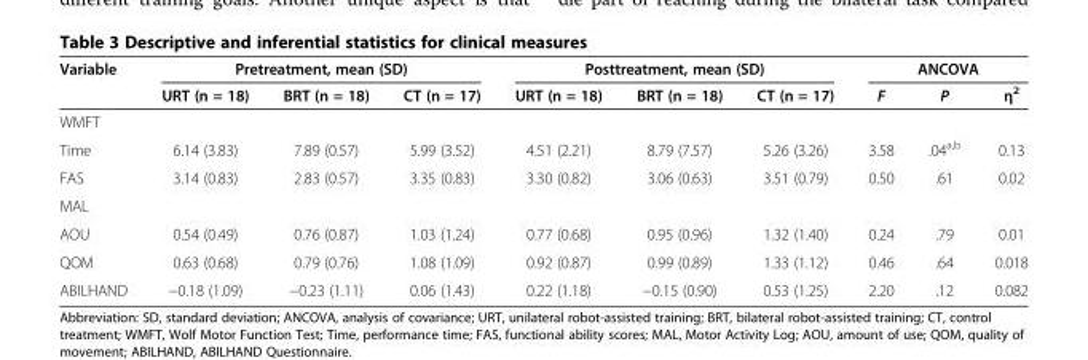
<table><thead><tr><td rowspan="2">Variable</td><td colspan="3">Pretreatment, mean (SD)</td><td colspan="3">Posttreatment, mean (SD)</td><td colspan="3">ANCOVA</td></tr><tr><td>URT (n = 18)</td><td>BRT (n = 18)</td><td>CT (n = 17)</td><td>URT (n = 18)</td><td>BRT (n = 18)</td><td>CT (n = 17)</td><td>F</td><td>P</td><td>η<sup>2</sup></td></tr></thead><tbody><tr><td colspan="10">WMFT</td></tr><tr><td>Time</td><td>6.14 (3.83)</td><td>7.89 (0.57)</td><td>5.99 (3.52)</td><td>4.51 (2.21)</td><td>8.79 (7.57)</td><td>5.26 (3.26)</td><td>3.58</td><td>.04<sup>a,b</sup></td><td>0.13</td></tr><tr><td>FAS</td><td>3.14 (0.83)</td><td>2.83 (0.57)</td><td>3.35 (0.83)</td><td>3.30 (0.82)</td><td>3.06 (0.63)</td><td>3.51 (0.79)</td><td>0.50</td><td>.61</td><td>0.02</td></tr><tr><td colspan="10">MAL</td></tr><tr><td>AOU</td><td>0.54 (0.49)</td><td>0.76 (0.87)</td><td>1.03 (1.24)</td><td>0.77 (0.68)</td><td>0.95 (0.96)</td><td>1.32 (1.40)</td><td>0.24</td><td>.79</td><td>0.01</td></tr><tr><td>QOM</td><td>0.63 (0.68)</td><td>0.79 (0.76)</td><td>1.08 (1.09)</td><td>0.92 (0.87)</td><td>0.99 (0.89)</td><td>1.33 (1.12)</td><td>0.46</td><td>.64</td><td>0.018</td></tr><tr><td>ABILHAND</td><td>−0.18 (1.09)</td><td>−0.23 (1.11)</td><td>0.06 (1.43)</td><td>0.22 (1.18)</td><td>−0.15 (0.90)</td><td>0.53 (1.25)</td><td>2.20</td><td>.12</td><td>0.082</td></tr></tbody></table>